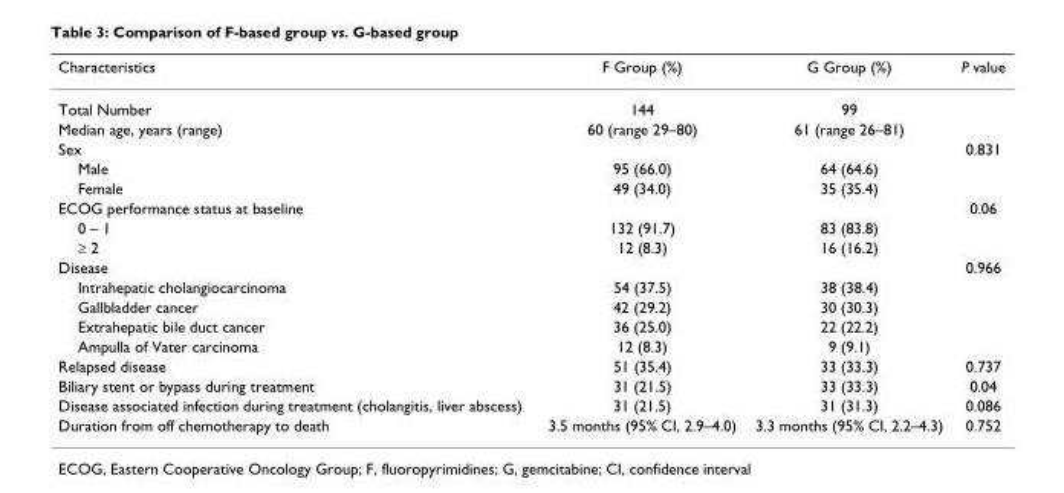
<table><thead><tr><td>Characteristics</td><td>F Group (%)</td><td>G Group (%)</td><td>P value</td></tr></thead><tbody><tr><td>Total Number</td><td>144</td><td>99</td><td></td></tr><tr><td>Median age, years (range)</td><td>60 (range 29–80)</td><td>61 (range 26–81)</td><td></td></tr><tr><td>Sex</td><td></td><td></td><td>0.831</td></tr><tr><td>Male</td><td>95 (66.0)</td><td>64 (64.6)</td><td></td></tr><tr><td>Female</td><td>49 (34.0)</td><td>35 (35.4)</td><td></td></tr><tr><td>ECOG performance status at baseline</td><td></td><td></td><td>0.06</td></tr><tr><td>0 – 1</td><td>132 (91.7)</td><td>83 (83.8)</td><td></td></tr><tr><td>≥ 2</td><td>12 (8.3)</td><td>16 (16.2)</td><td></td></tr><tr><td>Disease</td><td></td><td></td><td>0.966</td></tr><tr><td>Intrahepatic cholangiocarcinoma</td><td>54 (37.5)</td><td>38 (38.4)</td><td></td></tr><tr><td>Gallbladder cancer</td><td>42 (29.2)</td><td>30 (30.3)</td><td></td></tr><tr><td>Extrahepatic bile duct cancer</td><td>36 (25.0)</td><td>22 (22.2)</td><td></td></tr><tr><td>Ampulla of Vater carcinoma</td><td>12 (8.3)</td><td>9 (9.1)</td><td></td></tr><tr><td>Relapsed disease</td><td>51 (35.4)</td><td>33 (33.3)</td><td>0.737</td></tr><tr><td>Biliary stent or bypass during treatment</td><td>31 (21.5)</td><td>33 (33.3)</td><td>0.04</td></tr><tr><td>Disease associated infection during treatment (cholangitis, liver abscess)</td><td>31 (21.5)</td><td>31 (31.3)</td><td>0.086</td></tr><tr><td>Duration from off chemotherapy to death</td><td>3.5 months (95% CI, 2.9–4.0)</td><td>3.3 months (95% CI, 2.2–4.3)</td><td>0.752</td></tr></tbody></table>